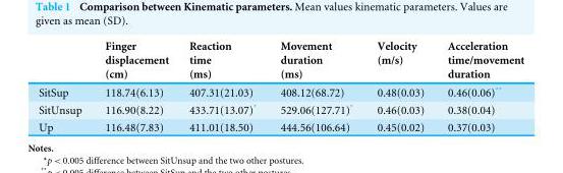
<table><thead><tr><td></td><td>Finger displacement (cm)</td><td>Reaction time (ms)</td><td>Movement duration (ms)</td><td>Velocity (m/s)</td><td>Acceleration time/movement duration</td></tr></thead><tbody><tr><td>SitSup</td><td>118.74(6.13)</td><td>407.31(21.03)</td><td>408.12(68.72)</td><td>0.48(0.03)</td><td>0.46(0.06)**</td></tr><tr><td>SitUnsup</td><td>116.90(8.22)</td><td>433.71(13.07)*</td><td>529.06(127.71)*</td><td>0.46(0.03)</td><td>0.38(0.04)</td></tr><tr><td>Up</td><td>116.48(7.83)</td><td>411.01(18.50)</td><td>444.56(106.64)</td><td>0.45(0.02)</td><td>0.37(0.03)</td></tr></tbody></table>